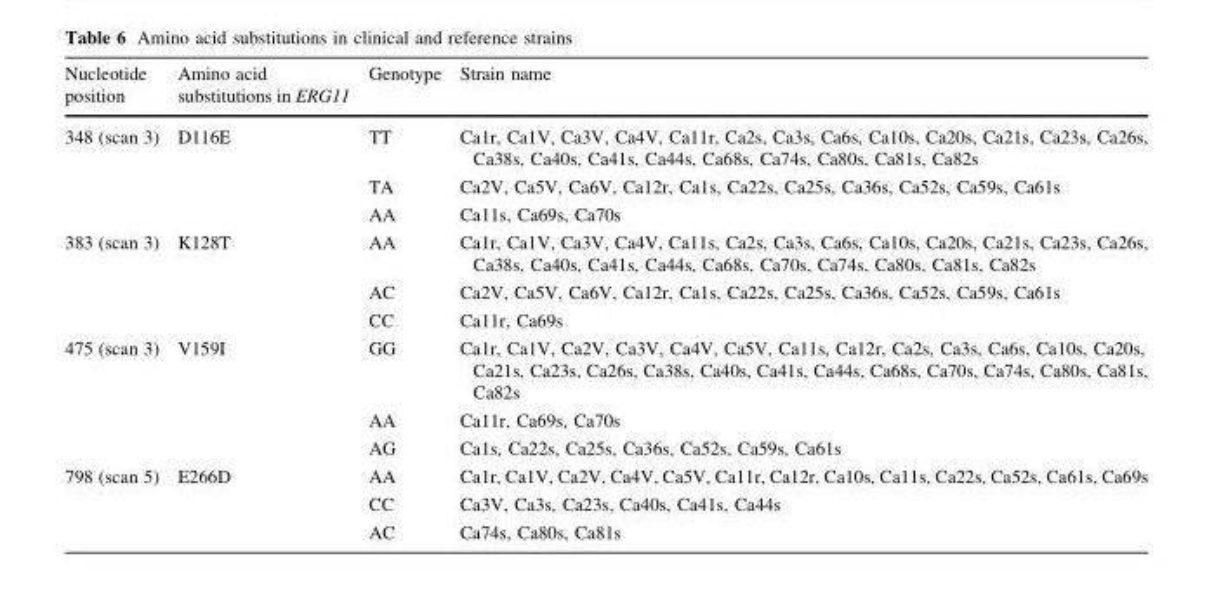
<table><thead><tr><td>Nucleotide position</td><td>Amino acid substitutions in ERG11</td><td>Genotype</td><td>Strain name</td></tr></thead><tbody><tr><td rowspan="3">348 (scan 3)</td><td rowspan="3">D116E</td><td>TT</td><td>Ca1r, Ca1V, Ca3V, Ca4V, Ca11r, Ca2s, Ca3s, Ca6s, Ca10s, Ca20s, Ca21s, Ca23s, Ca26s, Ca38s, Ca40s, Ca41s, Ca44s, Ca68s, Ca74s, Ca80s, Ca81s, Ca82s</td></tr><tr><td>TA</td><td>Ca2V, Ca5V, Ca6V, Ca12r, Ca1s, Ca22s, Ca25s, Ca36s, Ca52s, Ca59s, Ca61s</td></tr><tr><td>AA</td><td>Ca11s, Ca69s, Ca70s</td></tr><tr><td rowspan="3">383 (scan 3)</td><td rowspan="3">K128T</td><td>AA</td><td>Ca1r, Ca1V, Ca3V, Ca4V, Ca11s, Ca2s, Ca3s, Ca6s, Ca10s, Ca20s, Ca21s, Ca23s, Ca26s, Ca38s, Ca40s, Ca41s, Ca44s, Ca68s, Ca70s, Ca74s, Ca80s, Ca81s, Ca82s</td></tr><tr><td>AC</td><td>Ca2V, Ca5V, Ca6V, Ca12r, Ca1s, Ca22s, Ca25s, Ca36s, Ca52s, Ca59s, Ca61s</td></tr><tr><td>CC</td><td>Ca11r, Ca69s</td></tr><tr><td rowspan="3">475 (scan 3)</td><td rowspan="3">V159I</td><td>GG</td><td>Ca1r, Ca1V, Ca2V, Ca3V, Ca4V, Ca5V, Ca11s, Ca12r, Ca2s, Ca3s, Ca6s, Ca10s, Ca20s, Ca21s, Ca23s, Ca26s, Ca38s, Ca40s, Ca41s, Ca44s, Ca68s, Ca70s, Ca74s, Ca80s, Ca81s, Ca82s</td></tr><tr><td>AA</td><td>Ca11r, Ca69s, Ca70s</td></tr><tr><td>AG</td><td>Ca1s, Ca22s, Ca25s, Ca36s, Ca52s, Ca59s, Ca61s</td></tr><tr><td rowspan="3">798 (scan 5)</td><td rowspan="3">E266D</td><td>AA</td><td>Ca1r, Ca1V, Ca2V, Ca4V, Ca5V, Ca11r, Ca12r, Ca10s, Ca11s, Ca22s, Ca52s, Ca61s, Ca69s</td></tr><tr><td>CC</td><td>Ca3V, Ca3s, Ca23s, Ca40s, Ca41s, Ca44s</td></tr><tr><td>AC</td><td>Ca74s, Ca80s, Ca81s</td></tr></tbody></table>